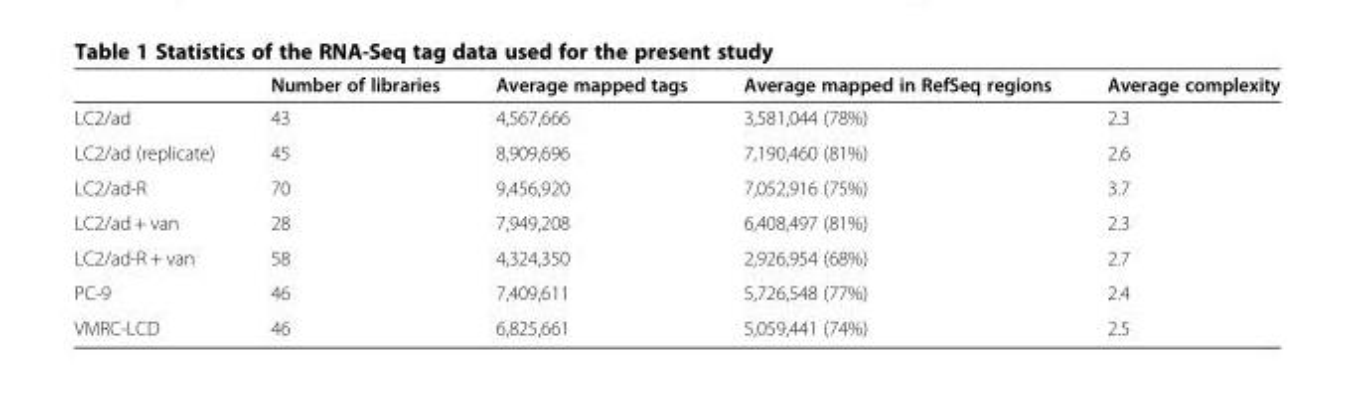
<table><thead><tr><td></td><td>Number of libraries</td><td>Average mapped tags</td><td>Average mapped in RefSeq regions</td><td>Average complexity</td></tr></thead><tbody><tr><td>LC2/ad</td><td>43</td><td>4,567,666</td><td>3,581,044 (78%)</td><td>2.3</td></tr><tr><td>LC2/ad (replicate)</td><td>45</td><td>8,909,696</td><td>7,190,460 (81%)</td><td>2.6</td></tr><tr><td>LC2/ad-R</td><td>70</td><td>9,456,920</td><td>7,052,916 (75%)</td><td>3.7</td></tr><tr><td>LC2/ad + van</td><td>28</td><td>7,949,208</td><td>6,408,497 (81%)</td><td>2.3</td></tr><tr><td>LC2/ad-R + van</td><td>58</td><td>4,324,350</td><td>2,926,954 (68%)</td><td>2.7</td></tr><tr><td>PC-9</td><td>46</td><td>7,409,611</td><td>5,726,548 (77%)</td><td>2.4</td></tr><tr><td>VMRC-LCD</td><td>46</td><td>6,825,661</td><td>5,059,441 (74%)</td><td>2.5</td></tr></tbody></table>